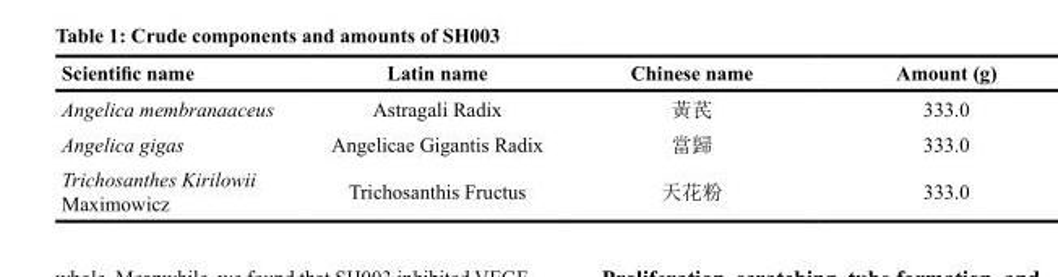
<table><thead><tr><td>Scientific name</td><td>Latin name</td><td>Chinese name</td><td>Amount (g)</td></tr></thead><tbody><tr><td>Angelica membranaaceus</td><td>Astragali Radix</td><td>黃芪</td><td>333.0</td></tr><tr><td>Angelica gigas</td><td>Angelicae Gigantis Radix</td><td>當歸</td><td>333.0</td></tr><tr><td>Trichosanthes Kirilowii Maximowicz</td><td>Trichosanthis Fructus</td><td>天花粉</td><td>333.0</td></tr></tbody></table>